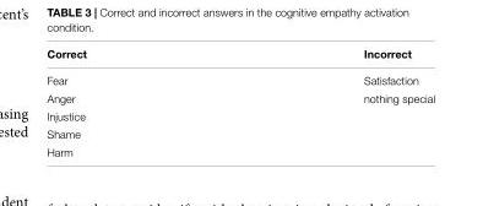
<table><thead><tr><td>Correct</td><td>Incorrect</td></tr></thead><tbody><tr><td>Fear</td><td>Satisfaction</td></tr><tr><td>Anger</td><td>nothing special</td></tr><tr><td colspan="2">Injustice</td></tr><tr><td colspan="2">Shame</td></tr><tr><td>Harm</td><td></td></tr></tbody></table>